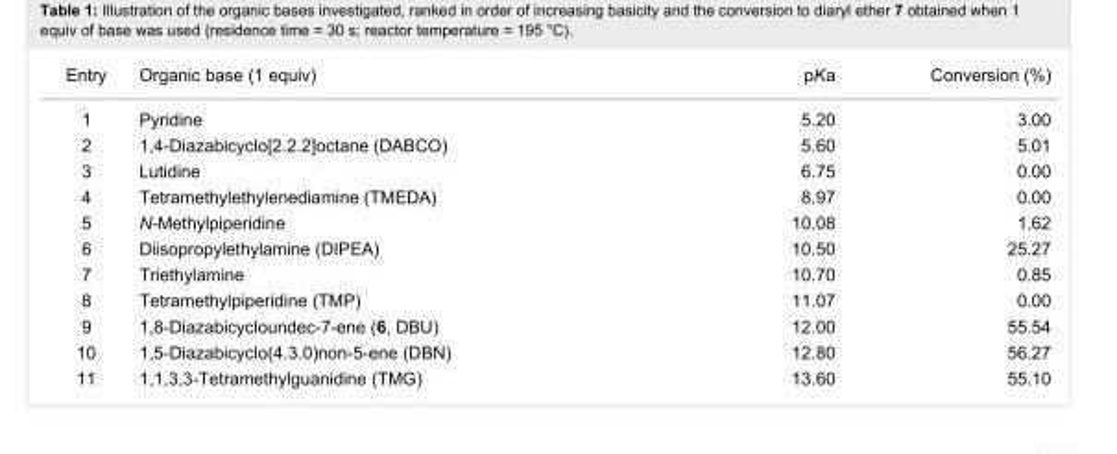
<table><tbody><tr><td>Entry</td><td>Organic base (1 equiv)</td><td>pKa</td><td>Conversion (%)</td></tr><tr><td>1</td><td>Pyridine</td><td>5.20</td><td>3.00</td></tr><tr><td>2</td><td>1,4-Diazabicyclo[2.2.2]octane (DABCO)</td><td>5.60</td><td>5.01</td></tr><tr><td>3</td><td>Lutidine</td><td>6.75</td><td>0.00</td></tr><tr><td>4</td><td>Tetramethylethylenediamine (TMEDA)</td><td>8.97</td><td>0.00</td></tr><tr><td>5</td><td>N-Methylpiperidine</td><td>10.08</td><td>1.62</td></tr><tr><td>6</td><td>Diisopropylethylamine (DIPEA)</td><td>10.50</td><td>25.27</td></tr><tr><td>7</td><td>Triethylamine</td><td>10.70</td><td>0.85</td></tr><tr><td>8</td><td>Tetramethylpiperidine (TMP)</td><td>11.07</td><td>0.00</td></tr><tr><td>9</td><td>1,8-Diazabicycloundec-7-ene (6, DBU)</td><td>12.00</td><td>55.54</td></tr><tr><td>10</td><td>1,5-Diazabicyclo(4.3.0)non-5-ene (DBN)</td><td>12.80</td><td>56.27</td></tr><tr><td>11</td><td>1,1,3,3-Tetramethylguanidine (TMG)</td><td>13.60</td><td>55.10</td></tr></tbody></table>